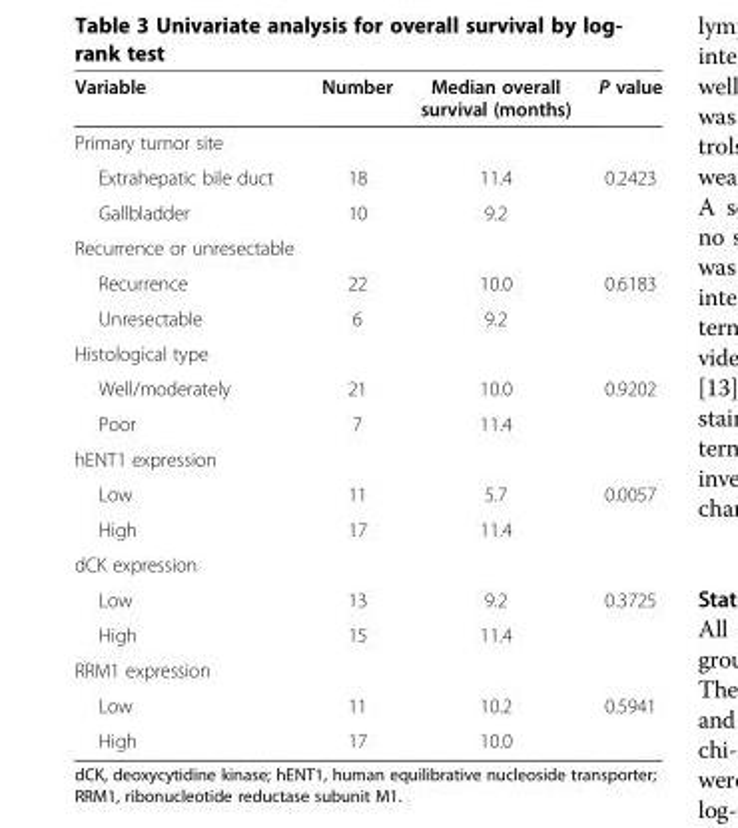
<table><thead><tr><td>Variable</td><td>Number</td><td>Median overall survival (months)</td><td>P value</td></tr></thead><tbody><tr><td colspan="4">Primary tumor site</td></tr><tr><td>Extrahepatic bile duct</td><td>18</td><td>11.4</td><td>0.2423</td></tr><tr><td>Gallbladder</td><td>10</td><td>9.2</td><td></td></tr><tr><td colspan="4">Recurrence or unresectable</td></tr><tr><td>Recurrence</td><td>22</td><td>10.0</td><td>0.6183</td></tr><tr><td>Unresectable</td><td>6</td><td>9.2</td><td></td></tr><tr><td colspan="4">Histological type</td></tr><tr><td>Well/moderately</td><td>21</td><td>10.0</td><td>0.9202</td></tr><tr><td>Poor</td><td>7</td><td>11.4</td><td></td></tr><tr><td colspan="4">hENT1 expression</td></tr><tr><td>Low</td><td>11</td><td>5.7</td><td>0.0057</td></tr><tr><td>High</td><td>17</td><td>11.4</td><td></td></tr><tr><td colspan="4">dCK expression</td></tr><tr><td>Low</td><td>13</td><td>9.2</td><td>0.3725</td></tr><tr><td>High</td><td>15</td><td>11.4</td><td></td></tr><tr><td colspan="4">RRM1 expression</td></tr><tr><td>Low</td><td>11</td><td>10.2</td><td>0.5941</td></tr><tr><td>High</td><td>17</td><td>10.0</td><td></td></tr></tbody></table>